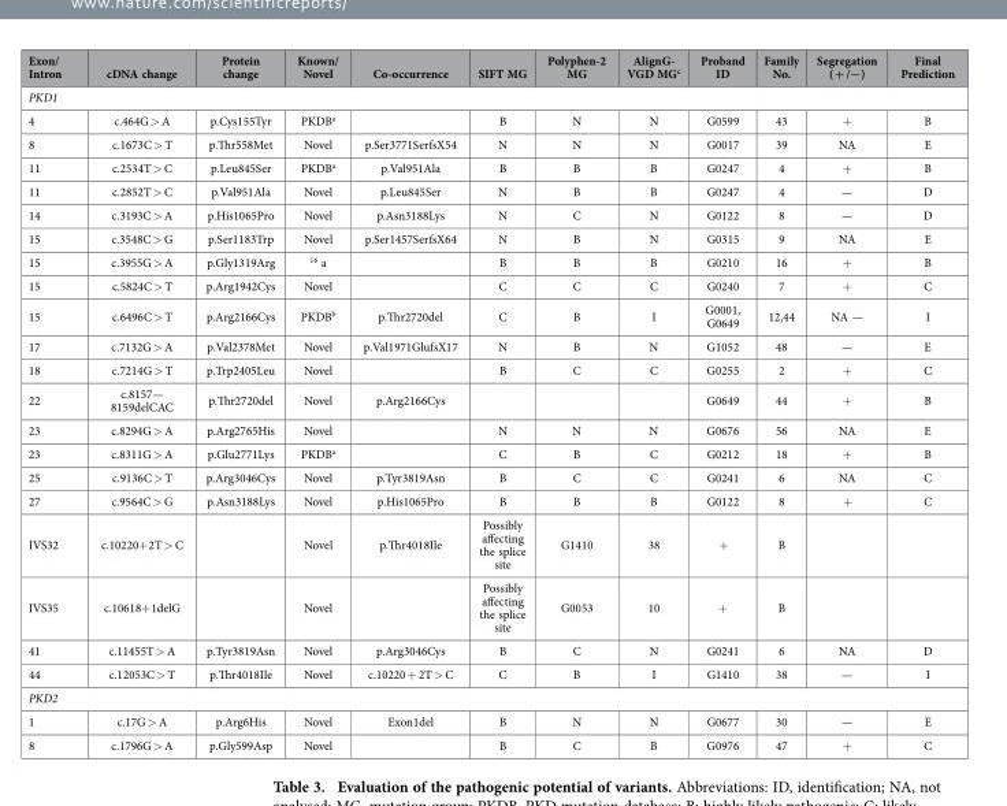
<table><thead><tr><td>Exon/ Intron</td><td>cDNA change</td><td>Protein change</td><td>Known/ Novel</td><td>Co-occurrence</td><td>SIFT MG</td><td>Polyphen-2 MG</td><td>AlignG- VGD MGc</td><td>Proband ID</td><td>Family No.</td><td>Segregation ( + /−)</td><td>Final Prediction</td></tr></thead><tbody><tr><td colspan="12">PKD1</td></tr><tr><td>4</td><td>c.464G &gt; A</td><td>p.Cys155Tyr</td><td>PKDB<sup>a</sup></td><td></td><td>B</td><td>N</td><td>N</td><td>G0599</td><td>43</td><td>+</td><td>B</td></tr><tr><td>8</td><td>c.1673C &gt; T</td><td>p.Thr558Met</td><td>Novel</td><td>p.Ser3771SerfsX54</td><td>N</td><td>N</td><td>N</td><td>G0017</td><td>39</td><td>NA</td><td>E</td></tr><tr><td>11</td><td>c.2534T &gt; C</td><td>p.Leu845Ser</td><td>PKDB<sup>a</sup></td><td>p.Val951Ala</td><td>B</td><td>B</td><td>B</td><td>G0247</td><td>4</td><td>+</td><td>B</td></tr><tr><td>11</td><td>c.2852T &gt; C</td><td>p.Val951Ala</td><td>Novel</td><td>p.Leu845Ser</td><td>N</td><td>B</td><td>B</td><td>G0247</td><td>4</td><td>—</td><td>D</td></tr><tr><td>14</td><td>c.3193C &gt; A</td><td>p.His1065Pro</td><td>Novel</td><td>p.Asn3188Lys</td><td>N</td><td>C</td><td>N</td><td>G0122</td><td>8</td><td>—</td><td>D</td></tr><tr><td>15</td><td>c.3548C &gt; G</td><td>p.Ser1183Trp</td><td>Novel</td><td>p.Ser1457SerfsX64</td><td>N</td><td>B</td><td>N</td><td>G0315</td><td>9</td><td>NA</td><td>E</td></tr><tr><td>15</td><td>c.3955G &gt; A</td><td>p.Gly1319Arg</td><td>16 a</td><td></td><td>B</td><td>B</td><td>B</td><td>G0210</td><td>16</td><td>+</td><td>B</td></tr><tr><td>15</td><td>c.5824C &gt; T</td><td>p.Arg1942Cys</td><td>Novel</td><td></td><td>C</td><td>C</td><td>C</td><td>G0240</td><td>7</td><td>+</td><td>C</td></tr><tr><td>15</td><td>c.6496C &gt; T</td><td>p.Arg2166Cys</td><td>PKDB<sup>b</sup></td><td>p.Thr2720del</td><td>C</td><td>B</td><td>I</td><td>G0001, G0649</td><td>12,44</td><td>NA —</td><td>I</td></tr><tr><td>17</td><td>c.7132G &gt; A</td><td>p.Val2378Met</td><td>Novel</td><td>p.Val1971GlufsX17</td><td>N</td><td>B</td><td>N</td><td>G1052</td><td>48</td><td>—</td><td>E</td></tr><tr><td>18</td><td>c.7214G &gt; T</td><td>p.Trp2405Leu</td><td>Novel</td><td></td><td>B</td><td>C</td><td>C</td><td>G0255</td><td>2</td><td>+</td><td>C</td></tr><tr><td>22</td><td>c.8157— 8159delCAC</td><td>p.Thr2720del</td><td>Novel</td><td>p.Arg2166Cys</td><td></td><td></td><td></td><td>G0649</td><td>44</td><td>+</td><td>B</td></tr><tr><td>23</td><td>c.8294G &gt; A</td><td>p.Arg2765His</td><td>Novel</td><td></td><td>N</td><td>N</td><td>N</td><td>G0676</td><td>56</td><td>NA</td><td>E</td></tr><tr><td>23</td><td>c.8311G &gt; A</td><td>p.Glu2771Lys</td><td>PKDB<sup>a</sup></td><td></td><td>C</td><td>B</td><td>C</td><td>G0212</td><td>18</td><td>+</td><td>B</td></tr><tr><td>25</td><td>c.9136C &gt; T</td><td>p.Arg3046Cys</td><td>Novel</td><td>p.Tyr3819Asn</td><td>B</td><td>C</td><td>C</td><td>G0241</td><td>6</td><td>NA</td><td>C</td></tr><tr><td>27</td><td>c.9564C &gt; G</td><td>p.Asn3188Lys</td><td>Novel</td><td>p.His1065Pro</td><td>B</td><td>B</td><td>B</td><td>G0122</td><td>8</td><td>+</td><td>C</td></tr><tr><td>IVS32</td><td>c.10220+ 2T &gt; C</td><td></td><td>Novel</td><td>p.Thr4018Ile</td><td>Possibly affecting the splice site</td><td>G1410</td><td>38</td><td>+</td><td>B</td><td></td><td></td></tr><tr><td>IVS35</td><td>c.10618+ 1delG</td><td></td><td>Novel</td><td></td><td>Possibly affecting the splice site</td><td>G0053</td><td>10</td><td>+</td><td>B</td><td></td><td></td></tr><tr><td>41</td><td>c.11455T &gt; A</td><td>p.Tyr3819Asn</td><td>Novel</td><td>p.Arg3046Cys</td><td>B</td><td>C</td><td>N</td><td>G0241</td><td>6</td><td>NA</td><td>D</td></tr><tr><td>44</td><td>c.12053C &gt; T</td><td>p.Thr4018Ile</td><td>Novel</td><td>c.10220 + 2T &gt; C</td><td>C</td><td>B</td><td>I</td><td>G1410</td><td>38</td><td>—</td><td>I</td></tr><tr><td colspan="12">PKD2</td></tr><tr><td>1</td><td>c.17G &gt; A</td><td>p.Arg6His</td><td>Novel</td><td>Exon1del</td><td>B</td><td>N</td><td>N</td><td>G0677</td><td>30</td><td>—</td><td>E</td></tr><tr><td>8</td><td>c.1796G &gt; A</td><td>p.Gly599Asp</td><td>Novel</td><td></td><td>B</td><td>C</td><td>B</td><td>G0976</td><td>47</td><td>+</td><td>C</td></tr></tbody></table>